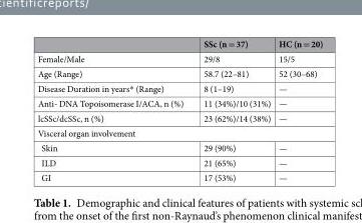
<table><thead><tr><td></td><td>SSc (n = 37)</td><td>HC (n = 20)</td></tr></thead><tbody><tr><td>Female/Male</td><td>29/8</td><td>15/5</td></tr><tr><td>Age (Range)</td><td>58.7 (22–81)</td><td>52 (30–68)</td></tr><tr><td>Disease Duration in years* (Range)</td><td>8 (1–19)</td><td>—</td></tr><tr><td>Anti- DNA Topoisomerase I/ACA, n (%)</td><td>11 (34%)/10 (31%)</td><td>—</td></tr><tr><td>lcSSc/dcSSc, n (%)</td><td>23 (62%)/14 (38%)</td><td>—</td></tr><tr><td colspan="3">Visceral organ involvement</td></tr><tr><td>Skin</td><td>29 (90%)</td><td>—</td></tr><tr><td>ILD</td><td>21 (65%)</td><td>—</td></tr><tr><td>GI</td><td>17 (53%)</td><td>—</td></tr></tbody></table>